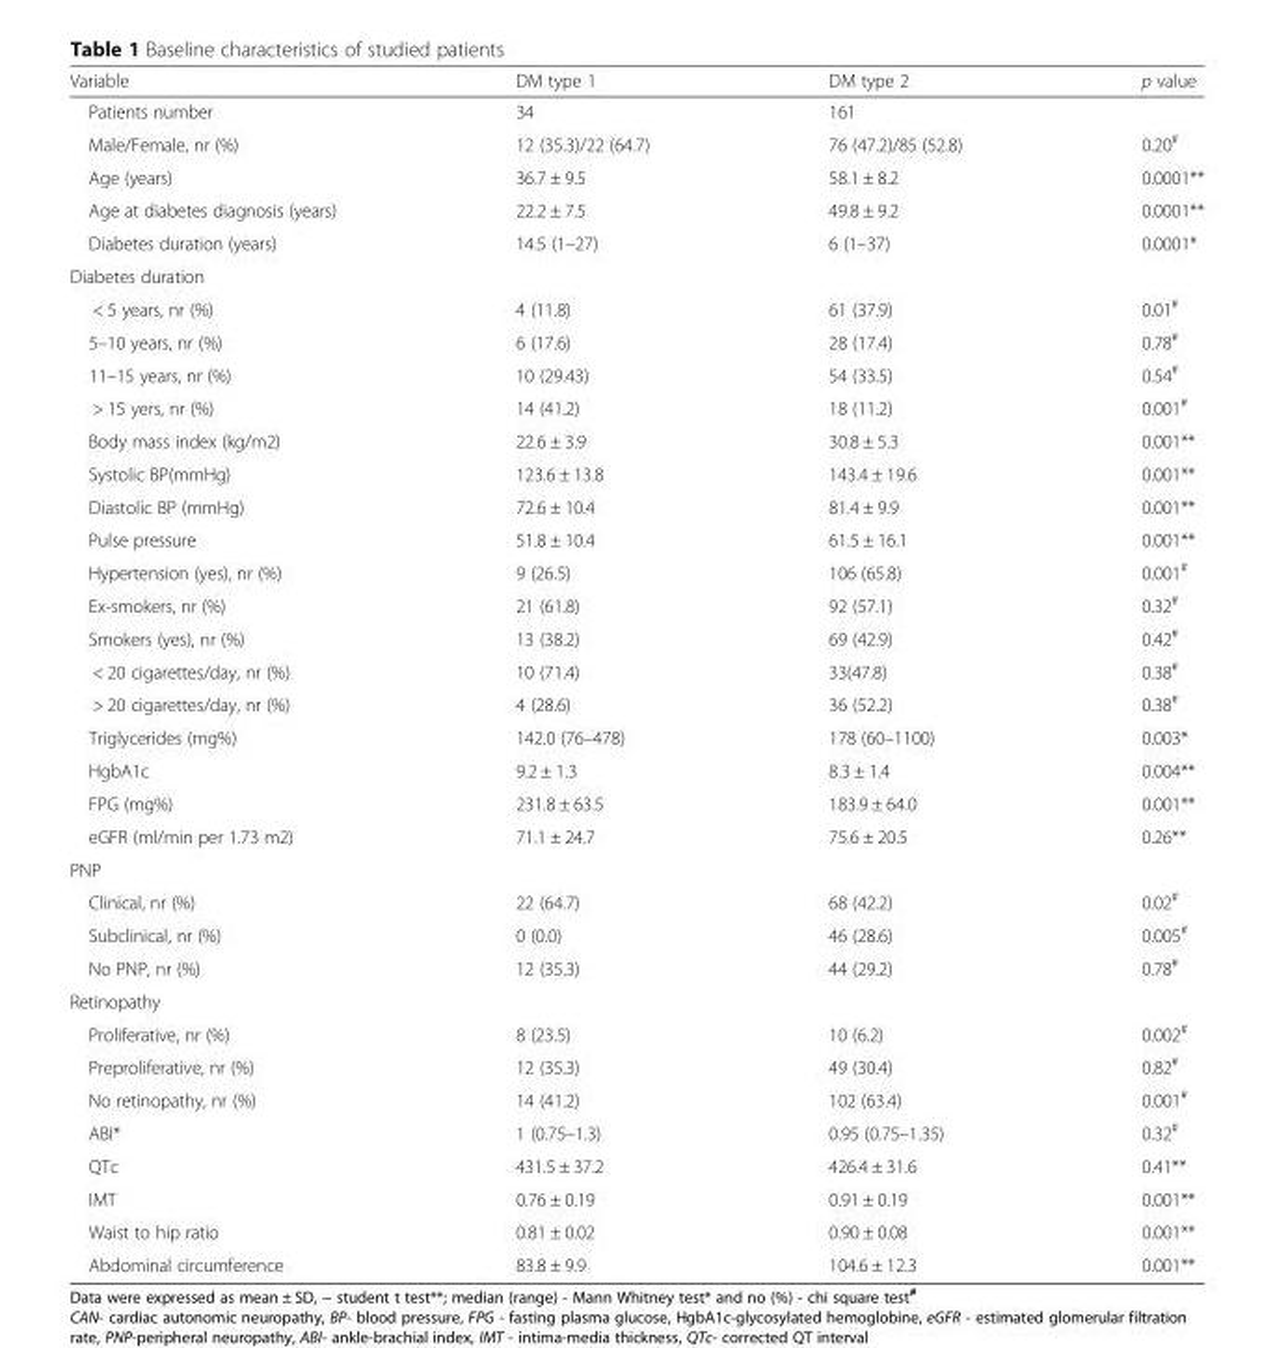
<table><thead><tr><td>Variable</td><td>DM type 1</td><td>DM type 2</td><td>p value</td></tr></thead><tbody><tr><td>Patients number</td><td>34</td><td>161</td><td></td></tr><tr><td>Male/Female, nr (%)</td><td>12 (35.3)/22 (64.7)</td><td>76 (47.2)/85 (52.8)</td><td>0.20<sup>#</sup></td></tr><tr><td>Age (years)</td><td>36.7 ± 9.5</td><td>58.1 ± 8.2</td><td>0.0001**</td></tr><tr><td>Age at diabetes diagnosis (years)</td><td>22.2 ± 7.5</td><td>49.8 ± 9.2</td><td>0.0001**</td></tr><tr><td>Diabetes duration (years)</td><td>14.5 (1–27)</td><td>6 (1–37)</td><td>0.0001*</td></tr><tr><td colspan="4">Diabetes duration</td></tr><tr><td>&lt; 5 years, nr (%)</td><td>4 (11.8)</td><td>61 (37.9)</td><td>0.01<sup>#</sup></td></tr><tr><td>5–10 years, nr (%)</td><td>6 (17.6)</td><td>28 (17.4)</td><td>0.78<sup>#</sup></td></tr><tr><td>11–15 years, nr (%)</td><td>10 (29.43)</td><td>54 (33.5)</td><td>0.54<sup>#</sup></td></tr><tr><td>&gt; 15 yers, nr (%)</td><td>14 (41.2)</td><td>18 (11.2)</td><td>0.001<sup>#</sup></td></tr><tr><td>Body mass index (kg/m2)</td><td>22.6 ± 3.9</td><td>30.8 ± 5.3</td><td>0.001**</td></tr><tr><td>Systolic BP(mmHg)</td><td>123.6 ± 13.8</td><td>143.4 ± 19.6</td><td>0.001**</td></tr><tr><td>Diastolic BP (mmHg)</td><td>72.6 ± 10.4</td><td>81.4 ± 9.9</td><td>0.001**</td></tr><tr><td>Pulse pressure</td><td>51.8 ± 10.4</td><td>61.5 ± 16.1</td><td>0.001**</td></tr><tr><td>Hypertension (yes), nr (%)</td><td>9 (26.5)</td><td>106 (65.8)</td><td>0.001<sup>#</sup></td></tr><tr><td>Ex-smokers, nr (%)</td><td>21 (61.8)</td><td>92 (57.1)</td><td>0.32<sup>#</sup></td></tr><tr><td>Smokers (yes), nr (%)</td><td>13 (38.2)</td><td>69 (42.9)</td><td>0.42<sup>#</sup></td></tr><tr><td>&lt; 20 cigarettes/day, nr (%)</td><td>10 (71.4)</td><td>33(47.8)</td><td>0.38<sup>#</sup></td></tr><tr><td>&gt; 20 cigarettes/day, nr (%)</td><td>4 (28.6)</td><td>36 (52.2)</td><td>0.38<sup>#</sup></td></tr><tr><td>Triglycerides (mg%)</td><td>142.0 (76–478)</td><td>178 (60–1100)</td><td>0.003*</td></tr><tr><td>HgbA1c</td><td>9.2 ± 1.3</td><td>8.3 ± 1.4</td><td>0.004**</td></tr><tr><td>FPG (mg%)</td><td>231.8 ± 63.5</td><td>183.9 ± 64.0</td><td>0.001**</td></tr><tr><td>eGFR (ml/min per 1.73 m2)</td><td>71.1 ± 24.7</td><td>75.6 ± 20.5</td><td>0.26**</td></tr><tr><td colspan="4">PNP</td></tr><tr><td>Clinical, nr (%)</td><td>22 (64.7)</td><td>68 (42.2)</td><td>0.02<sup>#</sup></td></tr><tr><td>Subclinical, nr (%)</td><td>0 (0.0)</td><td>46 (28.6)</td><td>0.005<sup>#</sup></td></tr><tr><td>No PNP, nr (%)</td><td>12 (35.3)</td><td>44 (29.2)</td><td>0.78<sup>#</sup></td></tr><tr><td colspan="4">Retinopathy</td></tr><tr><td>Proliferative, nr (%)</td><td>8 (23.5)</td><td>10 (6.2)</td><td>0.002<sup>#</sup></td></tr><tr><td>Preproliferative, nr (%)</td><td>12 (35.3)</td><td>49 (30.4)</td><td>0.82<sup>#</sup></td></tr><tr><td>No retinopathy, nr (%)</td><td>14 (41.2)</td><td>102 (63.4)</td><td>0.001<sup>#</sup></td></tr><tr><td>ABI*</td><td>1 (0.75–1.3)</td><td>0.95 (0.75–1.35)</td><td>0.32<sup>#</sup></td></tr><tr><td>QTc</td><td>431.5 ± 37.2</td><td>426.4 ± 31.6</td><td>0.41**</td></tr><tr><td>IMT</td><td>0.76 ± 0.19</td><td>0.91 ± 0.19</td><td>0.001**</td></tr><tr><td>Waist to hip ratio</td><td>0.81 ± 0.02</td><td>0.90 ± 0.08</td><td>0.001**</td></tr><tr><td>Abdominal circumference</td><td>83.8 ± 9.9</td><td>104.6 ± 12.3</td><td>0.001**</td></tr></tbody></table>